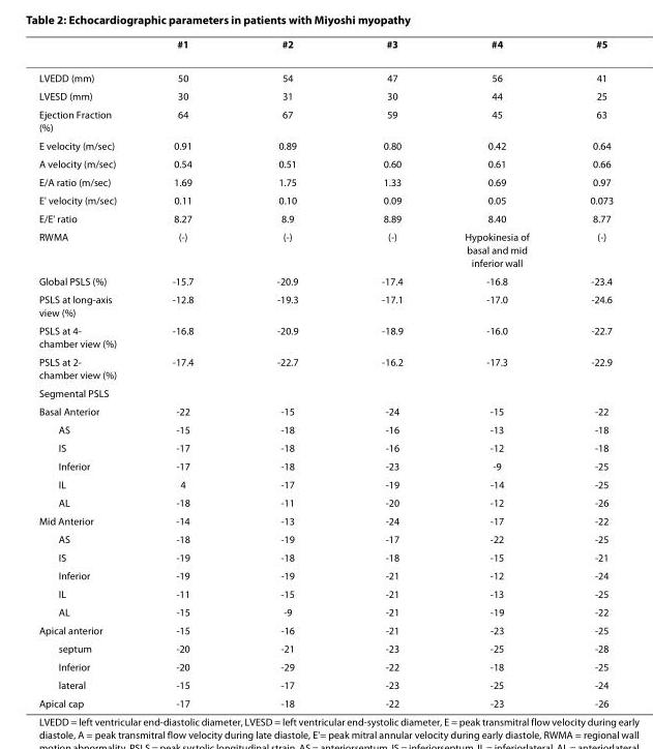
<table><thead><tr><td></td><td>#1</td><td>#2</td><td>#3</td><td>#4</td><td>#5</td></tr></thead><tbody><tr><td>LVEDD (mm)</td><td>50</td><td>54</td><td>47</td><td>56</td><td>41</td></tr><tr><td>LVESD (mm)</td><td>30</td><td>31</td><td>30</td><td>44</td><td>25</td></tr><tr><td>Ejection Fraction (%)</td><td>64</td><td>67</td><td>59</td><td>45</td><td>63</td></tr><tr><td>E velocity (m/sec)</td><td>0.91</td><td>0.89</td><td>0.80</td><td>0.42</td><td>0.64</td></tr><tr><td>A velocity (m/sec)</td><td>0.54</td><td>0.51</td><td>0.60</td><td>0.61</td><td>0.66</td></tr><tr><td>E/A ratio (m/sec)</td><td>1.69</td><td>1.75</td><td>1.33</td><td>0.69</td><td>0.97</td></tr><tr><td>E&#x27; velocity (m/sec)</td><td>0.11</td><td>0.10</td><td>0.09</td><td>0.05</td><td>0.073</td></tr><tr><td>E/E&#x27; ratio</td><td>8.27</td><td>8.9</td><td>8.89</td><td>8.40</td><td>8.77</td></tr><tr><td>RWMA</td><td>(-)</td><td>(-)</td><td>(-)</td><td>Hypokinesia of basal and mid inferior wall</td><td>(-)</td></tr><tr><td>Global PSLS (%)</td><td>-15.7</td><td>-20.9</td><td>-17.4</td><td>-16.8</td><td>-23.4</td></tr><tr><td>PSLS at long-axis view (%)</td><td>-12.8</td><td>-19.3</td><td>-17.1</td><td>-17.0</td><td>-24.6</td></tr><tr><td>PSLS at 4- chamber view (%)</td><td>-16.8</td><td>-20.9</td><td>-18.9</td><td>-16.0</td><td>-22.7</td></tr><tr><td>PSLS at 2- chamber view (%)</td><td>-17.4</td><td>-22.7</td><td>-16.2</td><td>-17.3</td><td>-22.9</td></tr><tr><td colspan="6">Segmental PSLS</td></tr><tr><td>Basal Anterior</td><td>-22</td><td>-15</td><td>-24</td><td>-15</td><td>-22</td></tr><tr><td>AS</td><td>-15</td><td>-18</td><td>-16</td><td>-13</td><td>-18</td></tr><tr><td>IS</td><td>-17</td><td>-18</td><td>-16</td><td>-12</td><td>-18</td></tr><tr><td>Inferior</td><td>-17</td><td>-18</td><td>-23</td><td>-9</td><td>-25</td></tr><tr><td>IL</td><td>4</td><td>-17</td><td>-19</td><td>-14</td><td>-25</td></tr><tr><td>AL</td><td>-18</td><td>-11</td><td>-20</td><td>-12</td><td>-26</td></tr><tr><td>Mid Anterior</td><td>-14</td><td>-13</td><td>-24</td><td>-17</td><td>-22</td></tr><tr><td>AS</td><td>-18</td><td>-19</td><td>-17</td><td>-22</td><td>-25</td></tr><tr><td>IS</td><td>-19</td><td>-18</td><td>-18</td><td>-15</td><td>-21</td></tr><tr><td>Inferior</td><td>-19</td><td>-19</td><td>-21</td><td>-12</td><td>-24</td></tr><tr><td>IL</td><td>-11</td><td>-15</td><td>-21</td><td>-13</td><td>-25</td></tr><tr><td>AL</td><td>-15</td><td>-9</td><td>-21</td><td>-19</td><td>-22</td></tr><tr><td>Apical anterior</td><td>-15</td><td>-16</td><td>-21</td><td>-23</td><td>-25</td></tr><tr><td>septum</td><td>-20</td><td>-21</td><td>-23</td><td>-25</td><td>-28</td></tr><tr><td>Inferior</td><td>-20</td><td>-29</td><td>-22</td><td>-18</td><td>-25</td></tr><tr><td>lateral</td><td>-15</td><td>-17</td><td>-23</td><td>-25</td><td>-24</td></tr><tr><td>Apical cap</td><td>-17</td><td>-18</td><td>-22</td><td>-23</td><td>-26</td></tr></tbody></table>